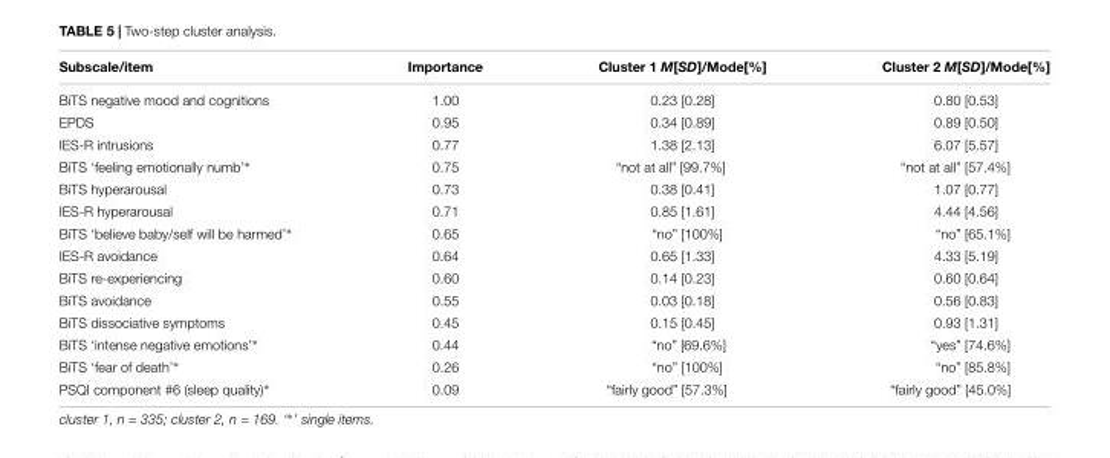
<table><thead><tr><td>Subscale/item</td><td>Importance</td><td>Cluster 1 M[SD]/Mode[%]</td><td>Cluster 2 M[SD]/Mode[%]</td></tr></thead><tbody><tr><td>BiTS negative mood and cognitions</td><td>1.00</td><td>0.23 [0.28]</td><td>0.80 [0.53]</td></tr><tr><td>EPDS</td><td>0.95</td><td>0.34 [0.89]</td><td>0.89 [0.50]</td></tr><tr><td>IES-R intrusions</td><td>0.77</td><td>1.38 [2.13]</td><td>6.07 [5.57]</td></tr><tr><td>BiTS ‘feeling emotionally numb’∗</td><td>0.75</td><td>“not at all” [99.7%]</td><td>“not at all” [57.4%]</td></tr><tr><td>BiTS hyperarousal</td><td>0.73</td><td>0.38 [0.41]</td><td>1.07 [0.77]</td></tr><tr><td>IES-R hyperarousal</td><td>0.71</td><td>0.85 [1.61]</td><td>4.44 [4.56]</td></tr><tr><td>BiTS ‘believe baby/self will be harmed’∗</td><td>0.65</td><td>“no” [100%]</td><td>“no” [65.1%]</td></tr><tr><td>IES-R avoidance</td><td>0.64</td><td>0.65 [1.33]</td><td>4.33 [5.19]</td></tr><tr><td>BiTS re-experiencing</td><td>0.60</td><td>0.14 [0.23]</td><td>0.60 [0.64]</td></tr><tr><td>BiTS avoidance</td><td>0.55</td><td>0.03 [0.18]</td><td>0.56 [0.83]</td></tr><tr><td>BiTS dissociative symptoms</td><td>0.45</td><td>0.15 [0.45]</td><td>0.93 [1.31]</td></tr><tr><td>BiTS ‘intense negative emotions’∗</td><td>0.44</td><td>“no” [69.6%]</td><td>“yes” [74.6%]</td></tr><tr><td>BiTS ‘fear of death’∗</td><td>0.26</td><td>“no” [100%]</td><td>“no” [85.8%]</td></tr><tr><td>PSQI component #6 (sleep quality)∗</td><td>0.09</td><td>“fairly good” [57.3%]</td><td>“fairly good” [45.0%]</td></tr></tbody></table>